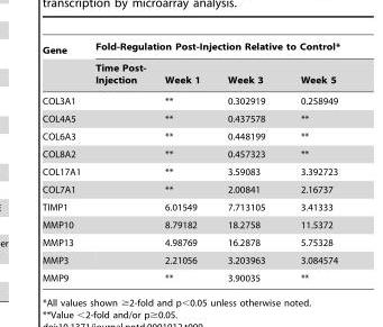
<table><thead><tr><td rowspan="2">Gene</td><td colspan="4">Fold-Regulation Post-Injection Relative to Control*</td></tr><tr><td>Time Post- Injection</td><td>Week 1</td><td>Week 3</td><td>Week 5</td></tr></thead><tbody><tr><td colspan="2">COL3A1</td><td>**</td><td>0.302919</td><td>0.258949</td></tr><tr><td colspan="2">COL4A5</td><td>**</td><td>0.437578</td><td>**</td></tr><tr><td colspan="2">COL6A3</td><td>**</td><td>0.448199</td><td>**</td></tr><tr><td colspan="2">COL8A2</td><td>**</td><td>0.457323</td><td>**</td></tr><tr><td colspan="2">COL17A1</td><td>**</td><td>3.59083</td><td>3.392723</td></tr><tr><td colspan="2">COL7A1</td><td>**</td><td>2.00841</td><td>2.16737</td></tr><tr><td>TIMP1</td><td></td><td>6.01549</td><td>7.713105</td><td>3.41333</td></tr><tr><td colspan="2">MMP10</td><td>8.79182</td><td>18.2758</td><td>11.5372</td></tr><tr><td colspan="2">MMP13</td><td>4.98769</td><td>16.2878</td><td>5.75328</td></tr><tr><td>MMP3</td><td></td><td>2.21056</td><td>3.203963</td><td>3.084574</td></tr><tr><td>MMP9</td><td></td><td>**</td><td>3.90035</td><td>**</td></tr></tbody></table>